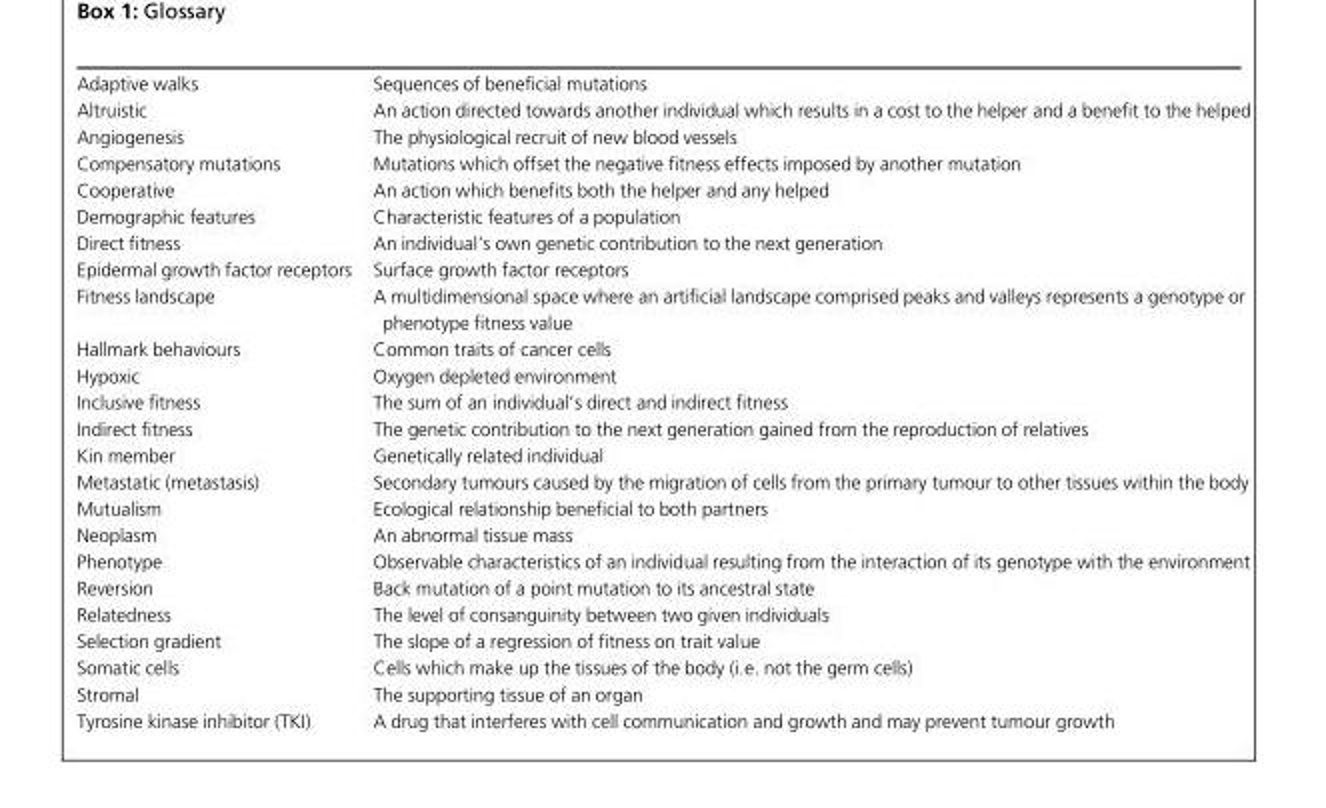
<table><tbody><tr><td>Adaptive walks</td><td>Sequences of beneficial mutations</td></tr><tr><td>Altruistic</td><td>An action directed towards another individual which results in a cost to the helper and a benefit to the helped</td></tr><tr><td>Angiogenesis</td><td>The physiological recruit of new blood vessels</td></tr><tr><td>Compensatory mutations</td><td>Mutations which offset the negative fitness effects imposed by another mutation</td></tr><tr><td>Cooperative</td><td>An action which benefits both the helper and any helped</td></tr><tr><td>Demographic features</td><td>Characteristic features of a population</td></tr><tr><td>Direct fitness</td><td>An individual’s own genetic contribution to the next generation</td></tr><tr><td>Epidermal growth factor receptors</td><td>Surface growth factor receptors</td></tr><tr><td>Fitness landscape</td><td>A multidimensional space where an artificial landscape comprised peaks and valleys represents a genotype or phenotype fitness value</td></tr><tr><td>Hallmark behaviours</td><td>Common traits of cancer cells</td></tr><tr><td>Hypoxic</td><td>Oxygen depleted environment</td></tr><tr><td>Inclusive fitness</td><td>The sum of an individual’s direct and indirect fitness</td></tr><tr><td>Indirect fitness</td><td>The genetic contribution to the next generation gained from the reproduction of relatives</td></tr><tr><td>Kin member</td><td>Genetically related individual</td></tr><tr><td>Metastatic (metastasis)</td><td>Secondary tumours caused by the migration of cells from the primary tumour to other tissues within the body</td></tr><tr><td>Mutualism</td><td>Ecological relationship beneficial to both partners</td></tr><tr><td>Neoplasm</td><td>An abnormal tissue mass</td></tr><tr><td>Phenotype</td><td>Observable characteristics of an individual resulting from the interaction of its genotype with the environment</td></tr><tr><td>Reversion</td><td>Back mutation of a point mutation to its ancestral state</td></tr><tr><td>Relatedness</td><td>The level of consanguinity between two given individuals</td></tr><tr><td>Selection gradient</td><td>The slope of a regression of fitness on trait value</td></tr><tr><td>Somatic cells</td><td>Cells which make up the tissues of the body (i.e. not the germ cells)</td></tr><tr><td>Stromal</td><td>The supporting tissue of an organ</td></tr><tr><td>Tyrosine kinase inhibitor (TKI)</td><td>A drug that interferes with cell communication and growth and may prevent tumour growth</td></tr></tbody></table>